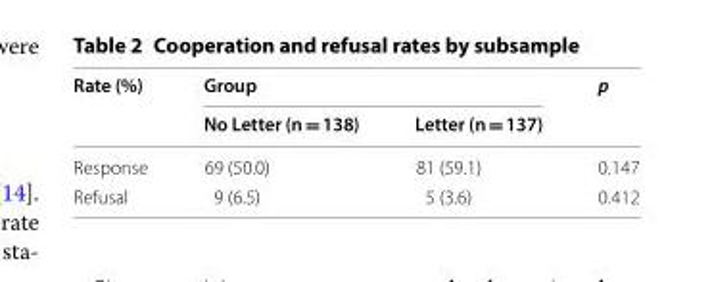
<table><thead><tr><td rowspan="2">Rate (%)</td><td colspan="2">Group</td><td rowspan="2">p</td></tr><tr><td>No Letter (n = 138)</td><td>Letter (n = 137)</td></tr></thead><tbody><tr><td>Response</td><td>69 (50.0)</td><td>81 (59.1)</td><td>0.147</td></tr><tr><td>Refusal</td><td>9 (6.5)</td><td>5 (3.6)</td><td>0.412</td></tr></tbody></table>